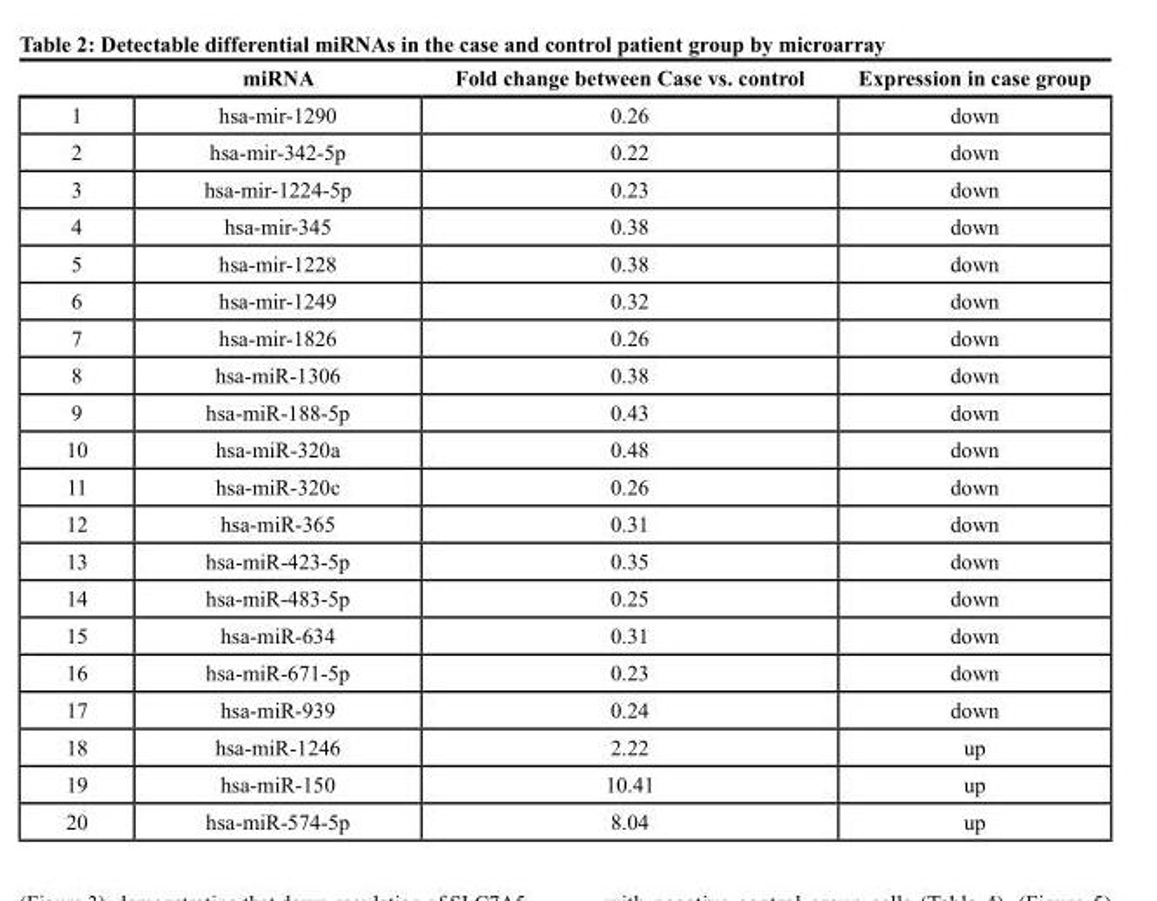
<table><thead><tr><td></td><td>miRNA</td><td>Fold change between Case vs. control</td><td>Expression in case group</td></tr></thead><tbody><tr><td>1</td><td>hsa-mir-1290</td><td>0.26</td><td>down</td></tr><tr><td>2</td><td>hsa-mir-342-5p</td><td>0.22</td><td>down</td></tr><tr><td>3</td><td>hsa-mir-1224-5p</td><td>0.23</td><td>down</td></tr><tr><td>4</td><td>hsa-mir-345</td><td>0.38</td><td>down</td></tr><tr><td>5</td><td>hsa-mir-1228</td><td>0.38</td><td>down</td></tr><tr><td>6</td><td>hsa-mir-1249</td><td>0.32</td><td>down</td></tr><tr><td>7</td><td>hsa-mir-1826</td><td>0.26</td><td>down</td></tr><tr><td>8</td><td>hsa-miR-1306</td><td>0.38</td><td>down</td></tr><tr><td>9</td><td>hsa-miR-188-5p</td><td>0.43</td><td>down</td></tr><tr><td>10</td><td>hsa-miR-320a</td><td>0.48</td><td>down</td></tr><tr><td>11</td><td>hsa-miR-320c</td><td>0.26</td><td>down</td></tr><tr><td>12</td><td>hsa-miR-365</td><td>0.31</td><td>down</td></tr><tr><td>13</td><td>hsa-miR-423-5p</td><td>0.35</td><td>down</td></tr><tr><td>14</td><td>hsa-miR-483-5p</td><td>0.25</td><td>down</td></tr><tr><td>15</td><td>hsa-miR-634</td><td>0.31</td><td>down</td></tr><tr><td>16</td><td>hsa-miR-671-5p</td><td>0.23</td><td>down</td></tr><tr><td>17</td><td>hsa-miR-939</td><td>0.24</td><td>down</td></tr><tr><td>18</td><td>hsa-miR-1246</td><td>2.22</td><td>up</td></tr><tr><td>19</td><td>hsa-miR-150</td><td>10.41</td><td>up</td></tr><tr><td>20</td><td>hsa-miR-574-5p</td><td>8.04</td><td>up</td></tr></tbody></table>